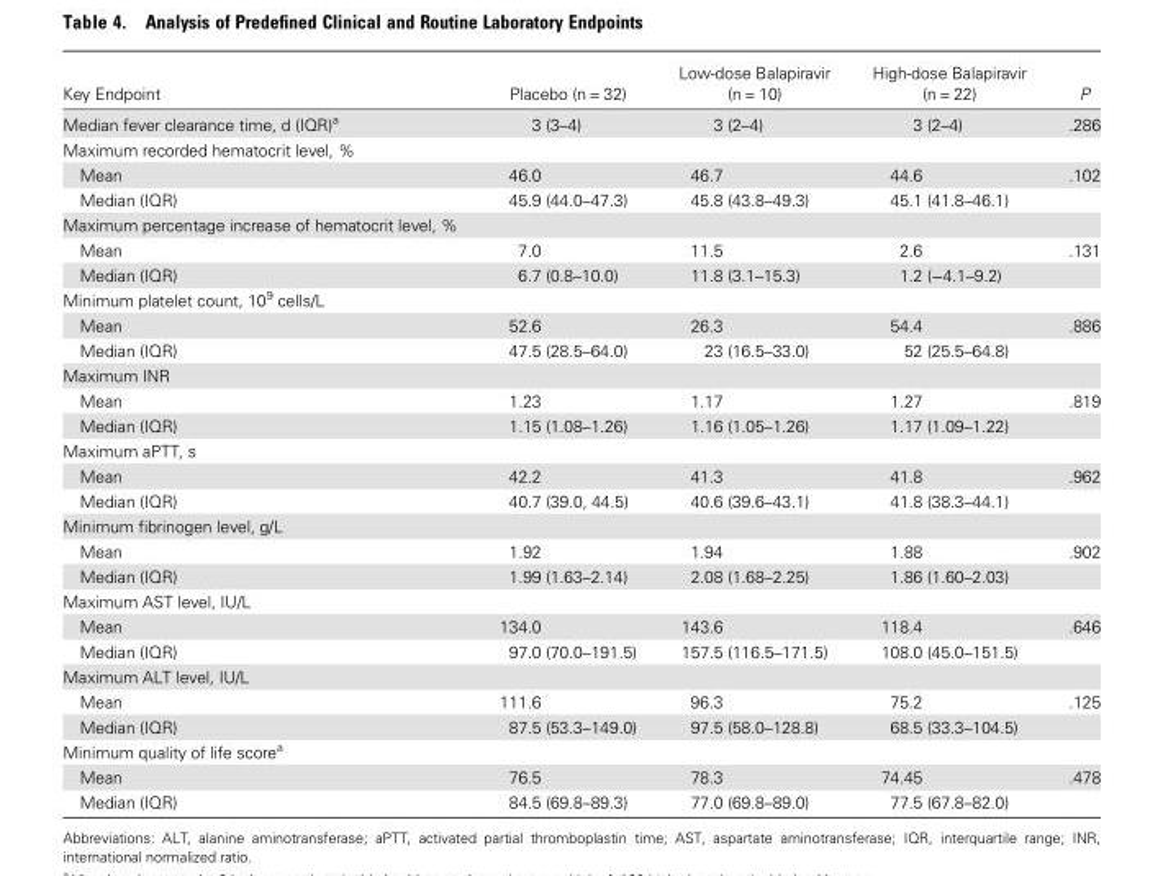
<table><thead><tr><td>Key Endpoint</td><td>Placebo (n = 32)</td><td>Low-dose Balapiravir (n = 10)</td><td>High-dose Balapiravir (n = 22)</td><td>P</td></tr></thead><tbody><tr><td>Median fever clearance time, d (IQR)<sup>a</sup></td><td>3 (3–4)</td><td>3 (2–4)</td><td>3 (2–4)</td><td>.286</td></tr><tr><td colspan="5">Maximum recorded hematocrit level, %</td></tr><tr><td>Mean</td><td>46.0</td><td>46.7</td><td>44.6</td><td>.102</td></tr><tr><td>Median (IQR)</td><td>45.9 (44.0–47.3)</td><td>45.8 (43.8–49.3)</td><td>45.1 (41.8–46.1)</td><td></td></tr><tr><td colspan="5">Maximum percentage increase of hematocrit level, %</td></tr><tr><td>Mean</td><td>7.0</td><td>11.5</td><td>2.6</td><td>.131</td></tr><tr><td>Median (IQR)</td><td>6.7 (0.8–10.0)</td><td>11.8 (3.1–15.3)</td><td>1.2 (−4.1–9.2)</td><td></td></tr><tr><td colspan="5">Minimum platelet count, 10<sup>9</sup> cells/L</td></tr><tr><td>Mean</td><td>52.6</td><td>26.3</td><td>54.4</td><td>.886</td></tr><tr><td>Median (IQR)</td><td>47.5 (28.5–64.0)</td><td>23 (16.5–33.0)</td><td>52 (25.5–64.8)</td><td></td></tr><tr><td colspan="5">Maximum INR</td></tr><tr><td>Mean</td><td>1.23</td><td>1.17</td><td>1.27</td><td>.819</td></tr><tr><td>Median (IQR)</td><td>1.15 (1.08–1.26)</td><td>1.16 (1.05–1.26)</td><td>1.17 (1.09–1.22)</td><td></td></tr><tr><td colspan="5">Maximum aPTT, s</td></tr><tr><td>Mean</td><td>42.2</td><td>41.3</td><td>41.8</td><td>.962</td></tr><tr><td>Median (IQR)</td><td>40.7 (39.0, 44.5)</td><td>40.6 (39.6–43.1)</td><td>41.8 (38.3–44.1)</td><td></td></tr><tr><td colspan="5">Minimum fibrinogen level, g/L</td></tr><tr><td>Mean</td><td>1.92</td><td>1.94</td><td>1.88</td><td>.902</td></tr><tr><td>Median (IQR)</td><td>1.99 (1.63–2.14)</td><td>2.08 (1.68–2.25)</td><td>1.86 (1.60–2.03)</td><td></td></tr><tr><td colspan="5">Maximum AST level, IU/L</td></tr><tr><td>Mean</td><td>134.0</td><td>143.6</td><td>118.4</td><td>.646</td></tr><tr><td>Median (IQR)</td><td>97.0 (70.0–191.5)</td><td>157.5 (116.5–171.5)</td><td>108.0 (45.0–151.5)</td><td></td></tr><tr><td colspan="5">Maximum ALT level, IU/L</td></tr><tr><td>Mean</td><td>111.6</td><td>96.3</td><td>75.2</td><td>.125</td></tr><tr><td>Median (IQR)</td><td>87.5 (53.3–149.0)</td><td>97.5 (58.0–128.8)</td><td>68.5 (33.3–104.5)</td><td></td></tr><tr><td colspan="5">Minimum quality of life score<sup>a</sup></td></tr><tr><td>Mean</td><td>76.5</td><td>78.3</td><td>74.45</td><td>.478</td></tr><tr><td>Median (IQR)</td><td>84.5 (69.8–89.3)</td><td>77.0 (69.8–89.0)</td><td>77.5 (67.8–82.0)</td><td></td></tr></tbody></table>